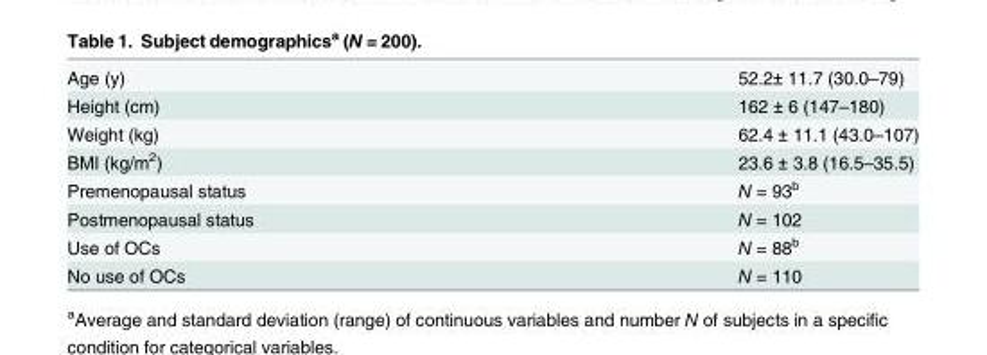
<table><tbody><tr><td>Age (y)</td><td>52.2± 11.7 (30.0–79)</td></tr><tr><td>Height (cm)</td><td>162 ± 6 (147–180)</td></tr><tr><td>Weight (kg)</td><td>62.4 ± 11.1 (43.0–107)</td></tr><tr><td>BMI (kg/m<sup>2</sup>)</td><td>23.6 ± 3.8 (16.5–35.5)</td></tr><tr><td>Premenopausal status</td><td>N = 93<sup>b</sup></td></tr><tr><td>Postmenopausal status</td><td>N = 102</td></tr><tr><td>Use of OCs</td><td>N = 88<sup>b</sup></td></tr><tr><td>No use of OCs</td><td>N = 110</td></tr></tbody></table>